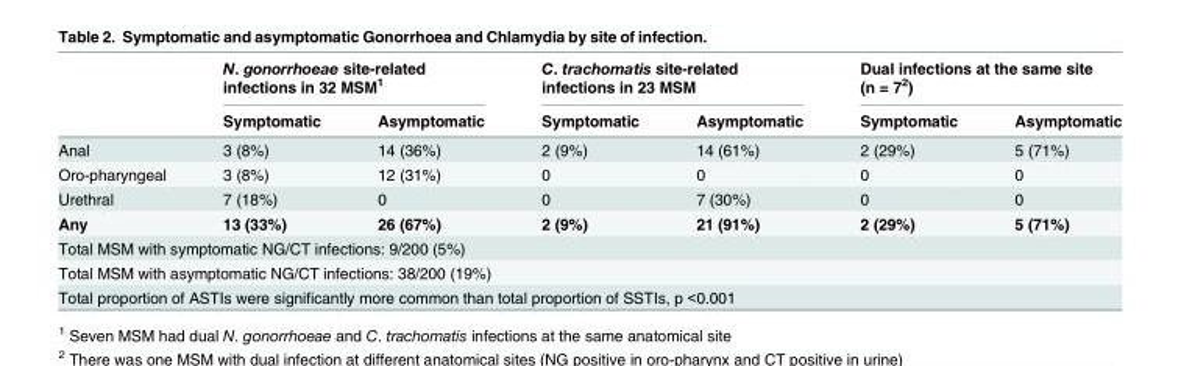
<table><thead><tr><td rowspan="2"></td><td colspan="2">N. gonorrhoeae site-related infections in 32 MSM<sup>1</sup></td><td colspan="2">C. trachomatis site-related infections in 23 MSM</td><td colspan="2">Dual infections at the same site (n = 7<sup>2</sup>)</td></tr><tr><td>Symptomatic</td><td>Asymptomatic</td><td>Symptomatic</td><td>Asymptomatic</td><td>Symptomatic</td><td>Asymptomatic</td></tr></thead><tbody><tr><td>Anal</td><td>3 (8%)</td><td>14 (36%)</td><td>2 (9%)</td><td>14 (61%)</td><td>2 (29%)</td><td>5 (71%)</td></tr><tr><td>Oro-pharyngeal</td><td>3 (8%)</td><td>12 (31%)</td><td>0</td><td>0</td><td>0</td><td>0</td></tr><tr><td>Urethral</td><td>7 (18%)</td><td>0</td><td>0</td><td>7 (30%)</td><td>0</td><td>0</td></tr><tr><td>Any</td><td>13 (33%)</td><td>26 (67%)</td><td>2 (9%)</td><td>21 (91%)</td><td>2 (29%)</td><td>5 (71%)</td></tr><tr><td colspan="7">Total MSM with symptomatic NG/CT infections: 9/200 (5%)</td></tr><tr><td colspan="7">Total MSM with asymptomatic NG/CT infections: 38/200 (19%)</td></tr><tr><td colspan="7">Total proportion of ASTIs were significantly more common than total proportion of SSTIs, p &lt;0.001</td></tr></tbody></table>